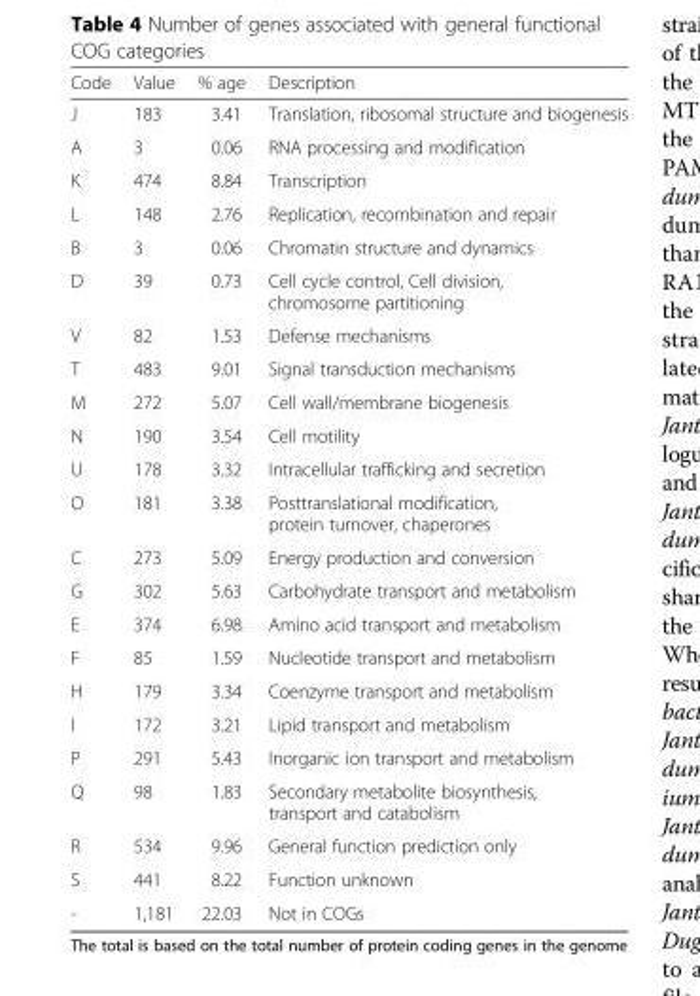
<table><thead><tr><td>Code</td><td>Value</td><td>% age</td><td>Description</td></tr></thead><tbody><tr><td>J</td><td>183</td><td>3.41</td><td>Translation, ribosomal structure and biogenesis</td></tr><tr><td>A</td><td>3</td><td>0.06</td><td>RNA processing and modification</td></tr><tr><td>K</td><td>474</td><td>8.84</td><td>Transcription</td></tr><tr><td>L</td><td>148</td><td>2.76</td><td>Replication, recombination and repair</td></tr><tr><td>B</td><td>3</td><td>0.06</td><td>Chromatin structure and dynamics</td></tr><tr><td>D</td><td>39</td><td>0.73</td><td>Cell cycle control, Cell division, chromosome partitioning</td></tr><tr><td>V</td><td>82</td><td>1.53</td><td>Defense mechanisms</td></tr><tr><td>T</td><td>483</td><td>9.01</td><td>Signal transduction mechanisms</td></tr><tr><td>M</td><td>272</td><td>5.07</td><td>Cell wall/membrane biogenesis</td></tr><tr><td>N</td><td>190</td><td>3.54</td><td>Cell motility</td></tr><tr><td>U</td><td>178</td><td>3.32</td><td>Intracellular trafficking and secretion</td></tr><tr><td>O</td><td>181</td><td>3.38</td><td>Posttranslational modification, protein turnover, chaperones</td></tr><tr><td>C</td><td>273</td><td>5.09</td><td>Energy production and conversion</td></tr><tr><td>G</td><td>302</td><td>5.63</td><td>Carbohydrate transport and metabolism</td></tr><tr><td>E</td><td>374</td><td>6.98</td><td>Amino acid transport and metabolism</td></tr><tr><td>F</td><td>85</td><td>1.59</td><td>Nucleotide transport and metabolism</td></tr><tr><td>H</td><td>179</td><td>3.34</td><td>Coenzyme transport and metabolism</td></tr><tr><td>I</td><td>172</td><td>3.21</td><td>Lipid transport and metabolism</td></tr><tr><td>P</td><td>291</td><td>5.43</td><td>Inorganic ion transport and metabolism</td></tr><tr><td>Q</td><td>98</td><td>1.83</td><td>Secondary metabolite biosynthesis, transport and catabolism</td></tr><tr><td>R</td><td>534</td><td>9.96</td><td>General function prediction only</td></tr><tr><td>S</td><td>441</td><td>8.22</td><td>Function unknown</td></tr><tr><td>-</td><td>1,181</td><td>22.03</td><td>Not in COGs</td></tr></tbody></table>